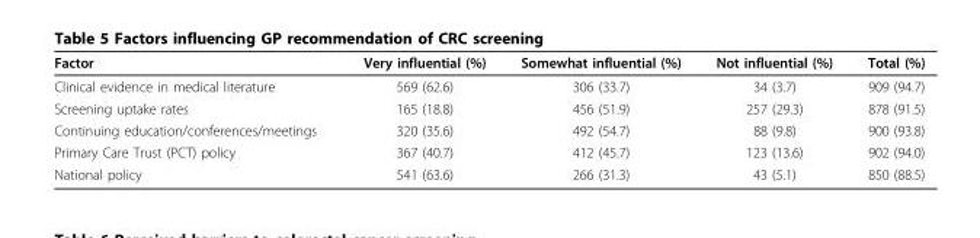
<table><thead><tr><td>Factor</td><td>Very influential (%)</td><td>Somewhat influential (%)</td><td>Not influential (%)</td><td>Total (%)</td></tr></thead><tbody><tr><td>Clinical evidence in medical literature</td><td>569 (62.6)</td><td>306 (33.7)</td><td>34 (3.7)</td><td>909 (94.7)</td></tr><tr><td>Screening uptake rates</td><td>165 (18.8)</td><td>456 (51.9)</td><td>257 (29.3)</td><td>878 (91.5)</td></tr><tr><td>Continuing education/conferences/meetings</td><td>320 (35.6)</td><td>492 (54.7)</td><td>88 (9.8)</td><td>900 (93.8)</td></tr><tr><td>Primary Care Trust (PCT) policy</td><td>367 (40.7)</td><td>412 (45.7)</td><td>123 (13.6)</td><td>902 (94.0)</td></tr><tr><td>National policy</td><td>541 (63.6)</td><td>266 (31.3)</td><td>43 (5.1)</td><td>850 (88.5)</td></tr></tbody></table>